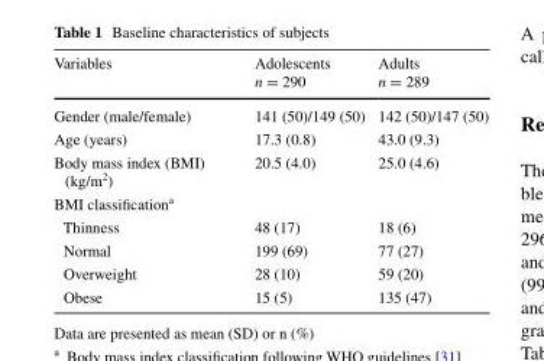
<table><thead><tr><td>Variables</td><td>Adolescents n = 290</td><td>Adults n = 289</td></tr></thead><tbody><tr><td>Gender (male/female)</td><td>141 (50)/149 (50)</td><td>142 (50)/147 (50)</td></tr><tr><td>Age (years)</td><td>17.3 (0.8)</td><td>43.0 (9.3)</td></tr><tr><td>Body mass index (BMI) (kg/m<sup>2</sup>)</td><td>20.5 (4.0)</td><td>25.0 (4.6)</td></tr><tr><td colspan="3">BMI classification<sup>a</sup></td></tr><tr><td>Thinness</td><td>48 (17)</td><td>18 (6)</td></tr><tr><td>Normal</td><td>199 (69)</td><td>77 (27)</td></tr><tr><td>Overweight</td><td>28 (10)</td><td>59 (20)</td></tr><tr><td>Obese</td><td>15 (5)</td><td>135 (47)</td></tr></tbody></table>